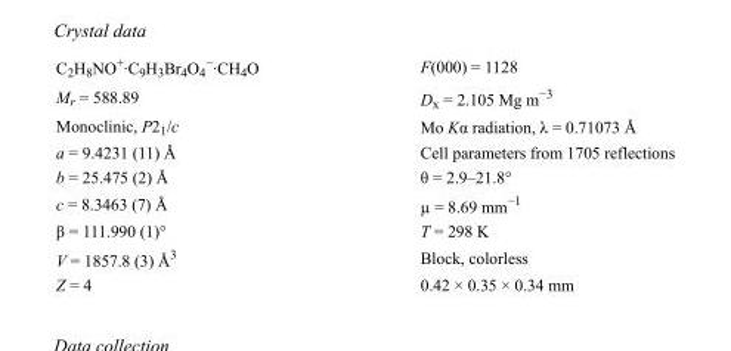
<table><tbody><tr><td>C<sub>2</sub>H<sub>8</sub>NO<sup>+</sup>·C<sub>9</sub>H<sub>3</sub>Br<sub>4</sub>O<sub>4</sub> <sup>−</sup>·CH<sub>4</sub>O</td><td>F(000) = 1128</td></tr><tr><td>M<sub>r</sub> = 588.89</td><td>D<sub>x</sub> = 2.105 Mg m<sup>−3</sup></td></tr><tr><td>Monoclinic, P2<sub>1</sub>/c</td><td>Mo Kα radiation, λ = 0.71073 Å</td></tr><tr><td>a = 9.4231 (11) Å</td><td>Cell parameters from 1705 reflections</td></tr><tr><td>b = 25.475 (2) Å</td><td>θ = 2.9–21.8°</td></tr><tr><td>c = 8.3463 (7) Å</td><td>µ = 8.69 mm<sup>−1</sup></td></tr><tr><td>β = 111.990 (1)°</td><td>T = 298 K</td></tr><tr><td>V = 1857.8 (3) Å<sup>3</sup></td><td>Block, colorless</td></tr><tr><td>Z = 4</td><td>0.42 × 0.35 × 0.34 mm</td></tr></tbody></table>